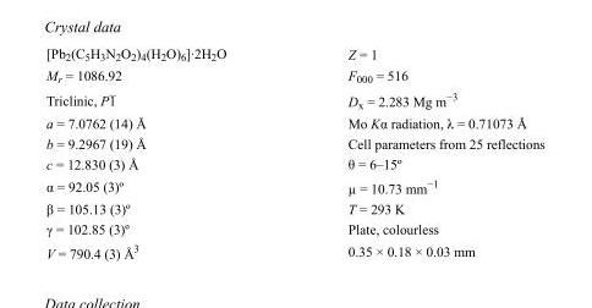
<table><tbody><tr><td>[Pb<sub>2</sub>(C<sub>5</sub>H<sub>3</sub>N<sub>2</sub>O<sub>2</sub>)<sub>4</sub>(H<sub>2</sub>O)<sub>6</sub>]·2H<sub>2</sub>O</td><td>Z = 1</td></tr><tr><td>M<sub>r</sub> = 1086.92</td><td>F000 = 516</td></tr><tr><td>Triclinic, P1</td><td>D<sub>x</sub> = 2.283 Mg m<sup>−3</sup></td></tr><tr><td>a = 7.0762 (14) Å</td><td>Mo Kα radiation, λ = 0.71073 Å</td></tr><tr><td>b = 9.2967 (19) Å</td><td>Cell parameters from 25 reflections</td></tr><tr><td>c = 12.830 (3) Å</td><td>θ = 6–15º</td></tr><tr><td>α = 92.05 (3)º</td><td>µ = 10.73 mm<sup>−1</sup></td></tr><tr><td>β = 105.13 (3)º</td><td>T = 293 K</td></tr><tr><td>γ = 102.85 (3)º</td><td>Plate, colourless</td></tr><tr><td>V = 790.4 (3) Å<sup>3</sup></td><td>0.35 × 0.18 × 0.03 mm</td></tr></tbody></table>